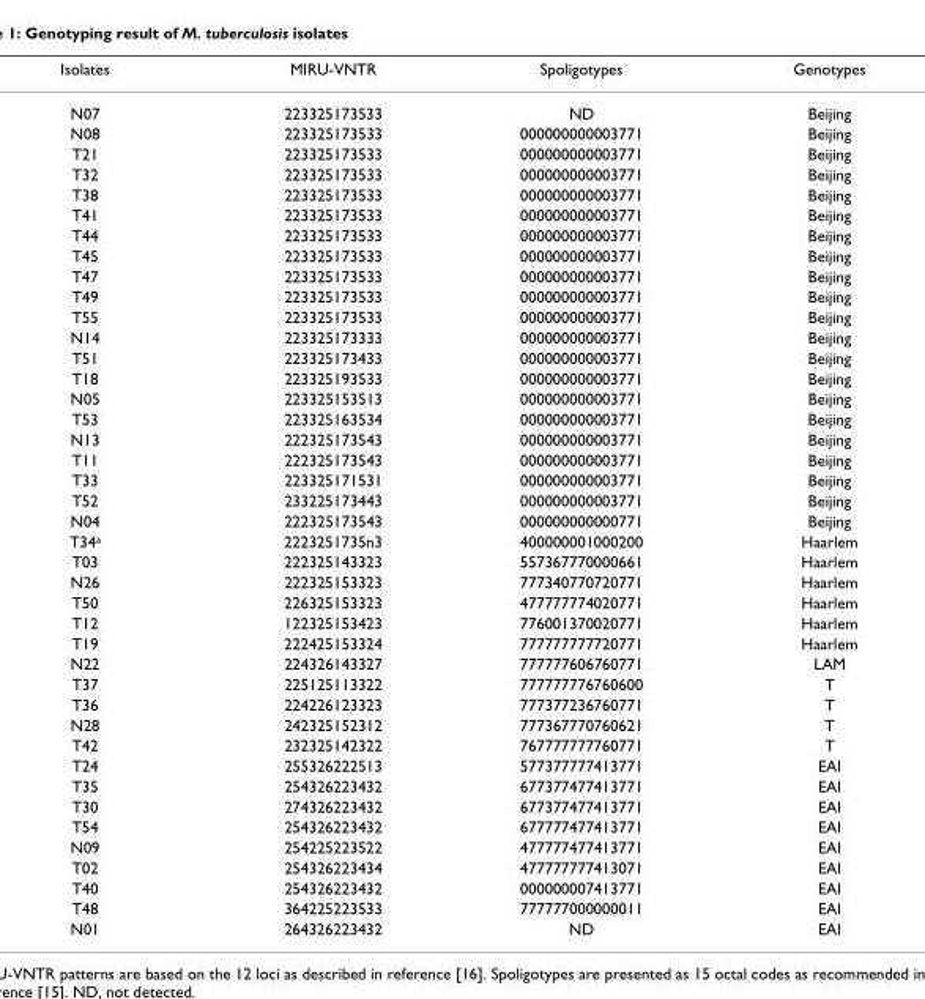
<table><thead><tr><td>Isolates</td><td>MIRU-VNTR</td><td>Spoligotypes</td><td>Genotypes</td></tr></thead><tbody><tr><td>N07</td><td>223325173533</td><td>ND</td><td>Beijing</td></tr><tr><td>N08</td><td>223325173533</td><td>000000000003771</td><td>Beijing</td></tr><tr><td>T21</td><td>223325173533</td><td>000000000003771</td><td>Beijing</td></tr><tr><td>T32</td><td>223325173533</td><td>000000000003771</td><td>Beijing</td></tr><tr><td>T38</td><td>223325173533</td><td>000000000003771</td><td>Beijing</td></tr><tr><td>T41</td><td>223325173533</td><td>000000000003771</td><td>Beijing</td></tr><tr><td>T44</td><td>223325173533</td><td>000000000003771</td><td>Beijing</td></tr><tr><td>T45</td><td>223325173533</td><td>000000000003771</td><td>Beijing</td></tr><tr><td>T47</td><td>223325173533</td><td>000000000003771</td><td>Beijing</td></tr><tr><td>T49</td><td>223325173533</td><td>000000000003771</td><td>Beijing</td></tr><tr><td>T55</td><td>223325173533</td><td>000000000003771</td><td>Beijing</td></tr><tr><td>N14</td><td>223325173333</td><td>000000000003771</td><td>Beijing</td></tr><tr><td>T51</td><td>223325173433</td><td>000000000003771</td><td>Beijing</td></tr><tr><td>T18</td><td>223325193533</td><td>000000000003771</td><td>Beijing</td></tr><tr><td>N05</td><td>223325153513</td><td>000000000003771</td><td>Beijing</td></tr><tr><td>T53</td><td>223325163534</td><td>000000000003771</td><td>Beijing</td></tr><tr><td>N13</td><td>222325173543</td><td>000000000003771</td><td>Beijing</td></tr><tr><td>T11</td><td>222325173543</td><td>000000000003771</td><td>Beijing</td></tr><tr><td>T33</td><td>223325171531</td><td>000000000003771</td><td>Beijing</td></tr><tr><td>T52</td><td>233225173443</td><td>000000000003771</td><td>Beijing</td></tr><tr><td>N04</td><td>222325173543</td><td>000000000000771</td><td>Beijing</td></tr><tr><td>T34<sup>a</sup></td><td>2223251735n3</td><td>400000001000200</td><td>Haarlem</td></tr><tr><td>T03</td><td>222325143323</td><td>557367770000661</td><td>Haarlem</td></tr><tr><td>N26</td><td>222325153323</td><td>777340770720771</td><td>Haarlem</td></tr><tr><td>T50</td><td>226325153323</td><td>477777774020771</td><td>Haarlem</td></tr><tr><td>T12</td><td>122325153423</td><td>776001370020771</td><td>Haarlem</td></tr><tr><td>T19</td><td>222425153324</td><td>777777777720771</td><td>Haarlem</td></tr><tr><td>N22</td><td>224326143327</td><td>777777606760771</td><td>LAM</td></tr><tr><td>T37</td><td>225125113322</td><td>777777776760600</td><td>T</td></tr><tr><td>T36</td><td>224226123323</td><td>777377236760771</td><td>T</td></tr><tr><td>N28</td><td>242325152312</td><td>777367770760621</td><td>T</td></tr><tr><td>T42</td><td>232325142322</td><td>767777777760771</td><td>T</td></tr><tr><td>T24</td><td>255326222513</td><td>577377777413771</td><td>EAI</td></tr><tr><td>T35</td><td>254326223432</td><td>677377477413771</td><td>EAI</td></tr><tr><td>T30</td><td>274326223432</td><td>677377477413771</td><td>EAI</td></tr><tr><td>T54</td><td>254326223432</td><td>677777477413771</td><td>EAI</td></tr><tr><td>N09</td><td>254225223522</td><td>477777477413771</td><td>EAI</td></tr><tr><td>T02</td><td>254326223434</td><td>477777777413071</td><td>EAI</td></tr><tr><td>T40</td><td>254326223432</td><td>000000007413771</td><td>EAI</td></tr><tr><td>T48</td><td>364225223533</td><td>777777000000011</td><td>EAI</td></tr><tr><td>N01</td><td>264326223432</td><td>ND</td><td>EAI</td></tr></tbody></table>